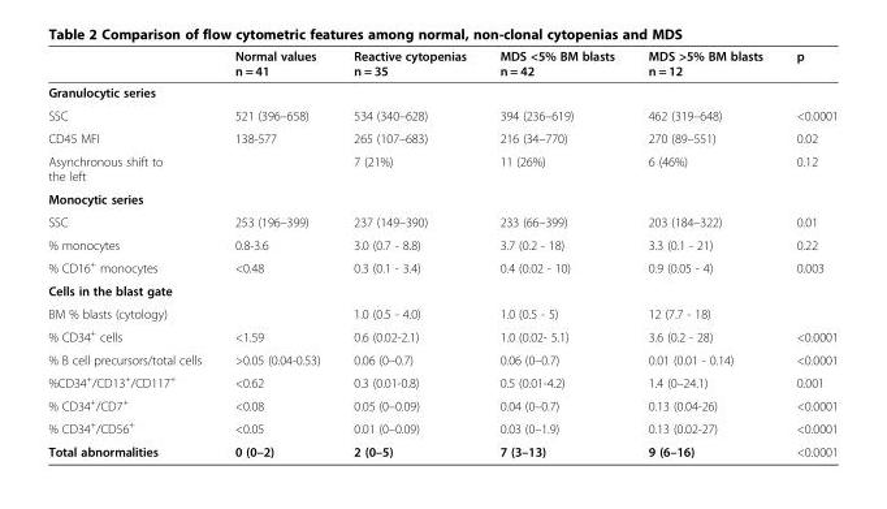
<table><thead><tr><td></td><td>Normal values n = 41</td><td>Reactive cytopenias n = 35</td><td>MDS &lt;5% BM blasts n = 42</td><td>MDS &gt;5% BM blasts n = 12</td><td>p</td></tr></thead><tbody><tr><td colspan="6">Granulocytic series</td></tr><tr><td>SSC</td><td>521 (396–658)</td><td>534 (340–628)</td><td>394 (236–619)</td><td>462 (319–648)</td><td>&lt;0.0001</td></tr><tr><td>CD45 MFI</td><td>138-577</td><td>265 (107–683)</td><td>216 (34–770)</td><td>270 (89–551)</td><td>0.02</td></tr><tr><td>Asynchronous shift to the left</td><td></td><td>7 (21%)</td><td>11 (26%)</td><td>6 (46%)</td><td>0.12</td></tr><tr><td colspan="6">Monocytic series</td></tr><tr><td>SSC</td><td>253 (196–399)</td><td>237 (149–390)</td><td>233 (66–399)</td><td>203 (184–322)</td><td>0.01</td></tr><tr><td>% monocytes</td><td>0.8-3.6</td><td>3.0 (0.7 - 8.8)</td><td>3.7 (0.2 - 18)</td><td>3.3 (0.1 - 21)</td><td>0.22</td></tr><tr><td>% CD16<sup>+</sup> monocytes</td><td>&lt;0.48</td><td>0.3 (0.1 - 3.4)</td><td>0.4 (0.02 - 10)</td><td>0.9 (0.05 - 4)</td><td>0.003</td></tr><tr><td colspan="6">Cells in the blast gate</td></tr><tr><td>BM % blasts (cytology)</td><td></td><td>1.0 (0.5 - 4.0)</td><td>1.0 (0.5 - 5)</td><td>12 (7.7 - 18)</td><td></td></tr><tr><td>% CD34<sup>+</sup> cells</td><td>&lt;1.59</td><td>0.6 (0.02-2.1)</td><td>1.0 (0.02- 5.1)</td><td>3.6 (0.2 - 28)</td><td>&lt;0.0001</td></tr><tr><td>% B cell precursors/total cells</td><td>&gt;0.05 (0.04-0.53)</td><td>0.06 (0–0.7)</td><td>0.06 (0–0.7)</td><td>0.01 (0.01 - 0.14)</td><td>&lt;0.0001</td></tr><tr><td>%CD34<sup>+</sup>/CD13<sup>+</sup>/CD117<sup>+</sup></td><td>&lt;0.62</td><td>0.3 (0.01-0.8)</td><td>0.5 (0.01-4.2)</td><td>1.4 (0–24.1)</td><td>0.001</td></tr><tr><td>% CD34<sup>+</sup>/CD7<sup>+</sup></td><td>&lt;0.08</td><td>0.05 (0–0.09)</td><td>0.04 (0–0.7)</td><td>0.13 (0.04-26)</td><td>&lt;0.0001</td></tr><tr><td>% CD34<sup>+</sup>/CD56<sup>+</sup></td><td>&lt;0.05</td><td>0.01 (0–0.09)</td><td>0.03 (0–1.9)</td><td>0.13 (0.02-27)</td><td>&lt;0.0001</td></tr><tr><td>Total abnormalities</td><td>0 (0–2)</td><td>2 (0–5)</td><td>7 (3–13)</td><td>9 (6–16)</td><td>&lt;0.0001</td></tr></tbody></table>